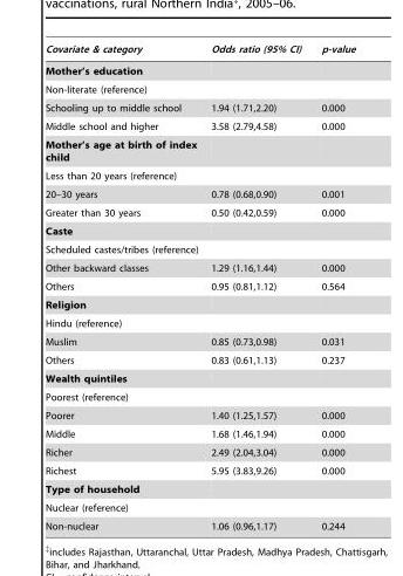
<table><thead><tr><td>Covariate &amp; category</td><td>Odds ratio (95% CI)</td><td>p-value</td></tr></thead><tbody><tr><td colspan="3">Mother’s education</td></tr><tr><td colspan="3">Non-literate (reference)</td></tr><tr><td>Schooling up to middle school</td><td>1.94 (1.71,2.20)</td><td>0.000</td></tr><tr><td>Middle school and higher</td><td>3.58 (2.79,4.58)</td><td>0.000</td></tr><tr><td colspan="3">Mother’s age at birth of index child</td></tr><tr><td colspan="3">Less than 20 years (reference)</td></tr><tr><td>20–30 years</td><td>0.78 (0.68,0.90)</td><td>0.001</td></tr><tr><td>Greater than 30 years</td><td>0.50 (0.42,0.59)</td><td>0.000</td></tr><tr><td colspan="3">Caste</td></tr><tr><td colspan="3">Scheduled castes/tribes (reference)</td></tr><tr><td>Other backward classes</td><td>1.29 (1.16,1.44)</td><td>0.000</td></tr><tr><td>Others</td><td>0.95 (0.81,1.12)</td><td>0.564</td></tr><tr><td colspan="3">Religion</td></tr><tr><td colspan="3">Hindu (reference)</td></tr><tr><td>Muslim</td><td>0.85 (0.73,0.98)</td><td>0.031</td></tr><tr><td>Others</td><td>0.83 (0.61,1.13)</td><td>0.237</td></tr><tr><td colspan="3">Wealth quintiles</td></tr><tr><td colspan="3">Poorest (reference)</td></tr><tr><td>Poorer</td><td>1.40 (1.25,1.57)</td><td>0.000</td></tr><tr><td>Middle</td><td>1.68 (1.46,1.94)</td><td>0.000</td></tr><tr><td>Richer</td><td>2.49 (2.04,3.04)</td><td>0.000</td></tr><tr><td>Richest</td><td>5.95 (3.83,9.26)</td><td>0.000</td></tr><tr><td colspan="3">Type of household</td></tr><tr><td colspan="3">Nuclear (reference)</td></tr><tr><td>Non-nuclear</td><td>1.06 (0.96,1.17)</td><td>0.244</td></tr></tbody></table>